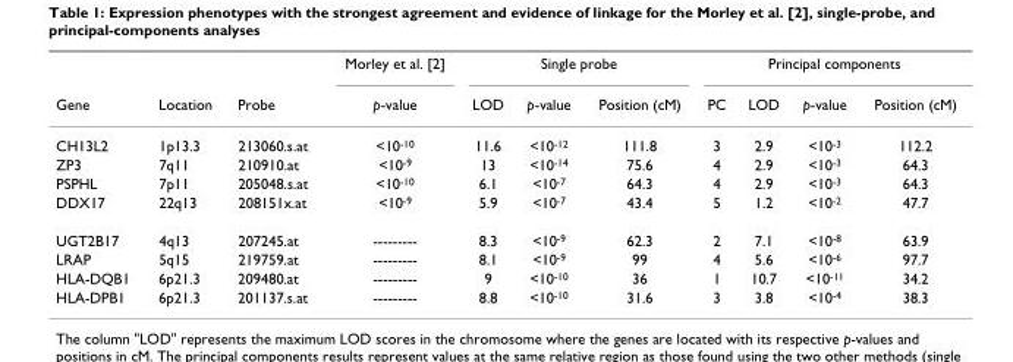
<table><thead><tr><td rowspan="2">Gene</td><td rowspan="2">Location</td><td rowspan="2">Probe</td><td rowspan="2">Morley et al. [2] p-value</td><td colspan="3">Single probe</td><td colspan="4">Principal components</td></tr><tr><td>LOD</td><td>p-value</td><td>Position (cM)</td><td>PC</td><td>LOD</td><td>p-value</td><td>Position (cM)</td></tr></thead><tbody><tr><td>CH13L2</td><td>1p13.3</td><td>213060.s.at</td><td>&lt;10<sup>-10</sup></td><td>11.6</td><td>&lt;10<sup>-12</sup></td><td>111.8</td><td>3</td><td>2.9</td><td>&lt;10<sup>-3</sup></td><td>112.2</td></tr><tr><td>ZP3</td><td>7q11</td><td>210910.at</td><td>&lt;10<sup>-9</sup></td><td>13</td><td>&lt;10<sup>-14</sup></td><td>75.6</td><td>4</td><td>2.9</td><td>&lt;10<sup>-3</sup></td><td>64.3</td></tr><tr><td>PSPHL</td><td>7p11</td><td>205048.s.at</td><td>&lt;10<sup>-10</sup></td><td>6.1</td><td>&lt;10<sup>-7</sup></td><td>64.3</td><td>4</td><td>2.9</td><td>&lt;10<sup>-3</sup></td><td>64.3</td></tr><tr><td>DDX17</td><td>22q13</td><td>208151x.at</td><td>&lt;10<sup>-9</sup></td><td>5.9</td><td>&lt;10<sup>-7</sup></td><td>43.4</td><td>5</td><td>1.2</td><td>&lt;10<sup>-2</sup></td><td>47.7</td></tr><tr><td>UGT2B17</td><td>4q13</td><td>207245.at</td><td>---------</td><td>8.3</td><td>&lt;10<sup>-9</sup></td><td>62.3</td><td>2</td><td>7.1</td><td>&lt;10<sup>-8</sup></td><td>63.9</td></tr><tr><td>LRAP</td><td>5q15</td><td>219759.at</td><td>---------</td><td>8.1</td><td>&lt;10<sup>-9</sup></td><td>99</td><td>4</td><td>5.6</td><td>&lt;10<sup>-6</sup></td><td>97.7</td></tr><tr><td>HLA-DQB1</td><td>6p21.3</td><td>209480.at</td><td>---------</td><td>9</td><td>&lt;10<sup>-10</sup></td><td>36</td><td>1</td><td>10.7</td><td>&lt;10<sup>-11</sup></td><td>34.2</td></tr><tr><td>HLA-DPB1</td><td>6p21.3</td><td>201137.s.at</td><td>---------</td><td>8.8</td><td>&lt;10<sup>-10</sup></td><td>31.6</td><td>3</td><td>3.8</td><td>&lt;10<sup>-4</sup></td><td>38.3</td></tr></tbody></table>